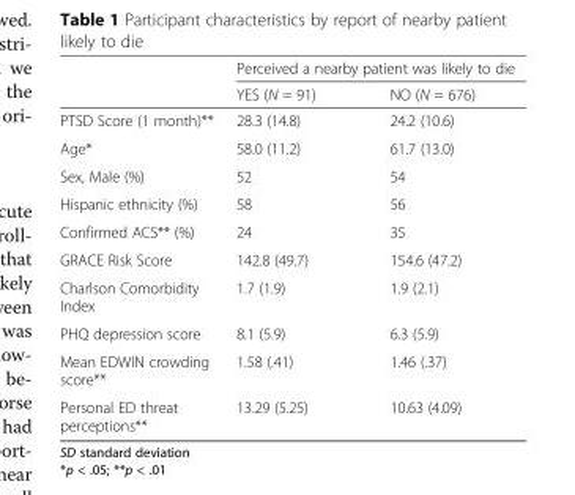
<table><thead><tr><td rowspan="2"></td><td colspan="2">Perceived a nearby patient was likely to die</td></tr><tr><td>YES (N = 91)</td><td>NO (N = 676)</td></tr></thead><tbody><tr><td>PTSD Score (1 month)**</td><td>28.3 (14.8)</td><td>24.2 (10.6)</td></tr><tr><td>Age*</td><td>58.0 (11.2)</td><td>61.7 (13.0)</td></tr><tr><td>Sex, Male (%)</td><td>52</td><td>54</td></tr><tr><td>Hispanic ethnicity (%)</td><td>58</td><td>56</td></tr><tr><td>Confirmed ACS** (%)</td><td>24</td><td>35</td></tr><tr><td>GRACE Risk Score</td><td>142.8 (49.7)</td><td>154.6 (47.2)</td></tr><tr><td>Charlson Comorbidity Index</td><td>1.7 (1.9)</td><td>1.9 (2.1)</td></tr><tr><td>PHQ depression score</td><td>8.1 (5.9)</td><td>6.3 (5.9)</td></tr><tr><td>Mean EDWIN crowding score**</td><td>1.58 (.41)</td><td>1.46 (.37)</td></tr><tr><td>Personal ED threat perceptions**</td><td>13.29 (5.25)</td><td>10.63 (4.09)</td></tr></tbody></table>